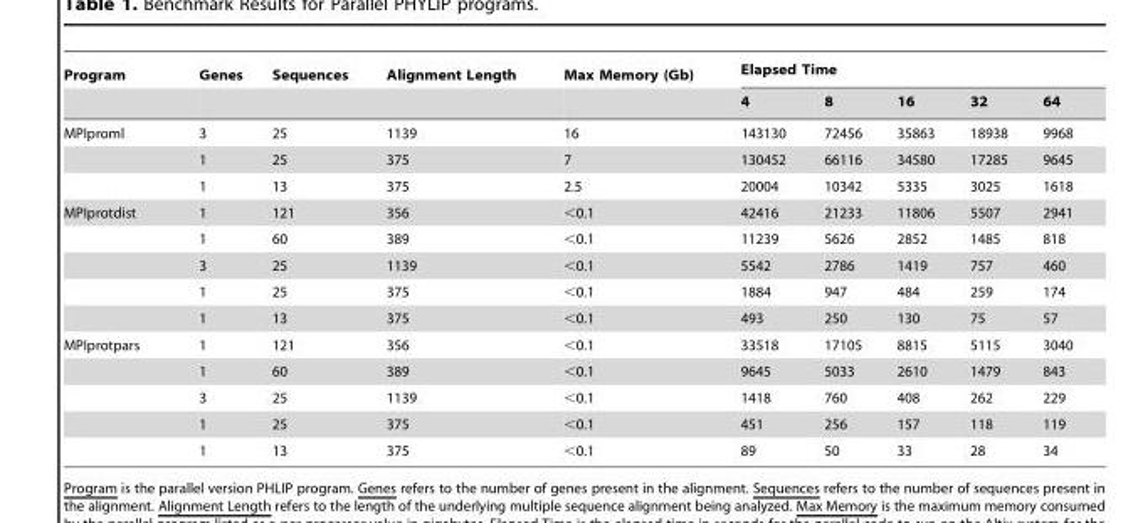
<table><thead><tr><td rowspan="2">Program</td><td rowspan="2">Genes</td><td rowspan="2">Sequences</td><td rowspan="2">Alignment Length</td><td rowspan="2">Max Memory (Gb)</td><td colspan="5">Elapsed Time</td></tr><tr><td>4</td><td>8</td><td>16</td><td>32</td><td>64</td></tr></thead><tbody><tr><td rowspan="3">MPIproml</td><td>3</td><td>25</td><td>1139</td><td>16</td><td>143130</td><td>72456</td><td>35863</td><td>18938</td><td>9968</td></tr><tr><td>1</td><td>25</td><td>375</td><td>7</td><td>130452</td><td>66116</td><td>34580</td><td>17285</td><td>9645</td></tr><tr><td>1</td><td>13</td><td>375</td><td>2.5</td><td>20004</td><td>10342</td><td>5335</td><td>3025</td><td>1618</td></tr><tr><td rowspan="5">MPIprotdist</td><td>1</td><td>121</td><td>356</td><td>&lt;0.1</td><td>42416</td><td>21233</td><td>11806</td><td>5507</td><td>2941</td></tr><tr><td>1</td><td>60</td><td>389</td><td>&lt;0.1</td><td>11239</td><td>5626</td><td>2852</td><td>1485</td><td>818</td></tr><tr><td>3</td><td>25</td><td>1139</td><td>&lt;0.1</td><td>5542</td><td>2786</td><td>1419</td><td>757</td><td>460</td></tr><tr><td>1</td><td>25</td><td>375</td><td>&lt;0.1</td><td>1884</td><td>947</td><td>484</td><td>259</td><td>174</td></tr><tr><td>1</td><td>13</td><td>375</td><td>&lt;0.1</td><td>493</td><td>250</td><td>130</td><td>75</td><td>57</td></tr><tr><td rowspan="5">MPIprotpars</td><td>1</td><td>121</td><td>356</td><td>&lt;0.1</td><td>33518</td><td>17105</td><td>8815</td><td>5115</td><td>3040</td></tr><tr><td>1</td><td>60</td><td>389</td><td>&lt;0.1</td><td>9645</td><td>5033</td><td>2610</td><td>1479</td><td>843</td></tr><tr><td>3</td><td>25</td><td>1139</td><td>&lt;0.1</td><td>1418</td><td>760</td><td>408</td><td>262</td><td>229</td></tr><tr><td>1</td><td>25</td><td>375</td><td>&lt;0.1</td><td>451</td><td>256</td><td>157</td><td>118</td><td>119</td></tr><tr><td>1</td><td>13</td><td>375</td><td>&lt;0.1</td><td>89</td><td>50</td><td>33</td><td>28</td><td>34</td></tr></tbody></table>